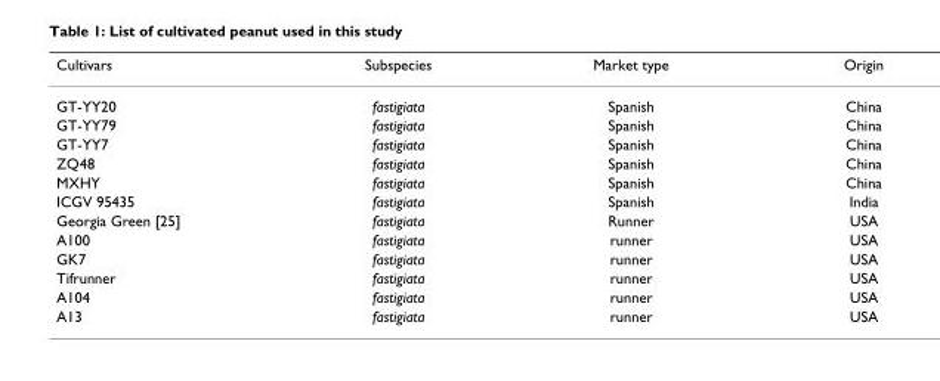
<table><thead><tr><td>Cultivars</td><td>Subspecies</td><td>Market type</td><td>Origin</td></tr></thead><tbody><tr><td>GT-YY20</td><td>fastigiata</td><td>Spanish</td><td>China</td></tr><tr><td>GT-YY79</td><td>fastigiata</td><td>Spanish</td><td>China</td></tr><tr><td>GT-YY7</td><td>fastigiata</td><td>Spanish</td><td>China</td></tr><tr><td>ZQ48</td><td>fastigiata</td><td>Spanish</td><td>China</td></tr><tr><td>MXHY</td><td>fastigiata</td><td>Spanish</td><td>China</td></tr><tr><td>ICGV 95435</td><td>fastigiata</td><td>Spanish</td><td>India</td></tr><tr><td>Georgia Green [25]</td><td>fastigiata</td><td>Runner</td><td>USA</td></tr><tr><td>A100</td><td>fastigiata</td><td>runner</td><td>USA</td></tr><tr><td>GK7</td><td>fastigiata</td><td>runner</td><td>USA</td></tr><tr><td>Tifrunner</td><td>fastigiata</td><td>runner</td><td>USA</td></tr><tr><td>A104</td><td>fastigiata</td><td>runner</td><td>USA</td></tr><tr><td>A13</td><td>fastigiata</td><td>runner</td><td>USA</td></tr></tbody></table>